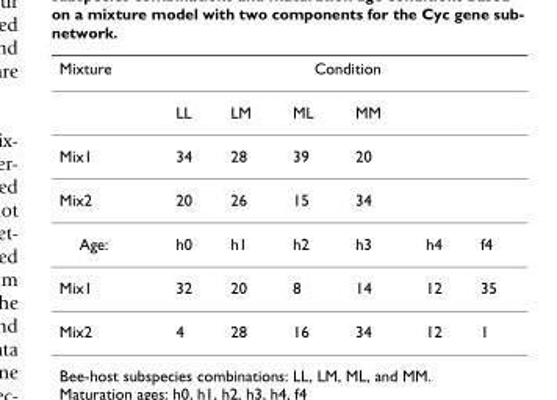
<table><thead><tr><td rowspan="2">Mixture</td><td colspan="6">Condition</td></tr><tr><td>LL</td><td>LM</td><td>ML</td><td>MM</td><td></td><td></td></tr></thead><tbody><tr><td>Mix1</td><td>34</td><td>28</td><td>39</td><td>20</td><td></td><td></td></tr><tr><td>Mix2</td><td>20</td><td>26</td><td>15</td><td>34</td><td></td><td></td></tr><tr><td>Age:</td><td>h0</td><td>h1</td><td>h2</td><td>h3</td><td>h4</td><td>f4</td></tr><tr><td>Mix1</td><td>32</td><td>20</td><td>8</td><td>14</td><td>12</td><td>35</td></tr><tr><td>Mix2</td><td>4</td><td>28</td><td>16</td><td>34</td><td>12</td><td>1</td></tr></tbody></table>